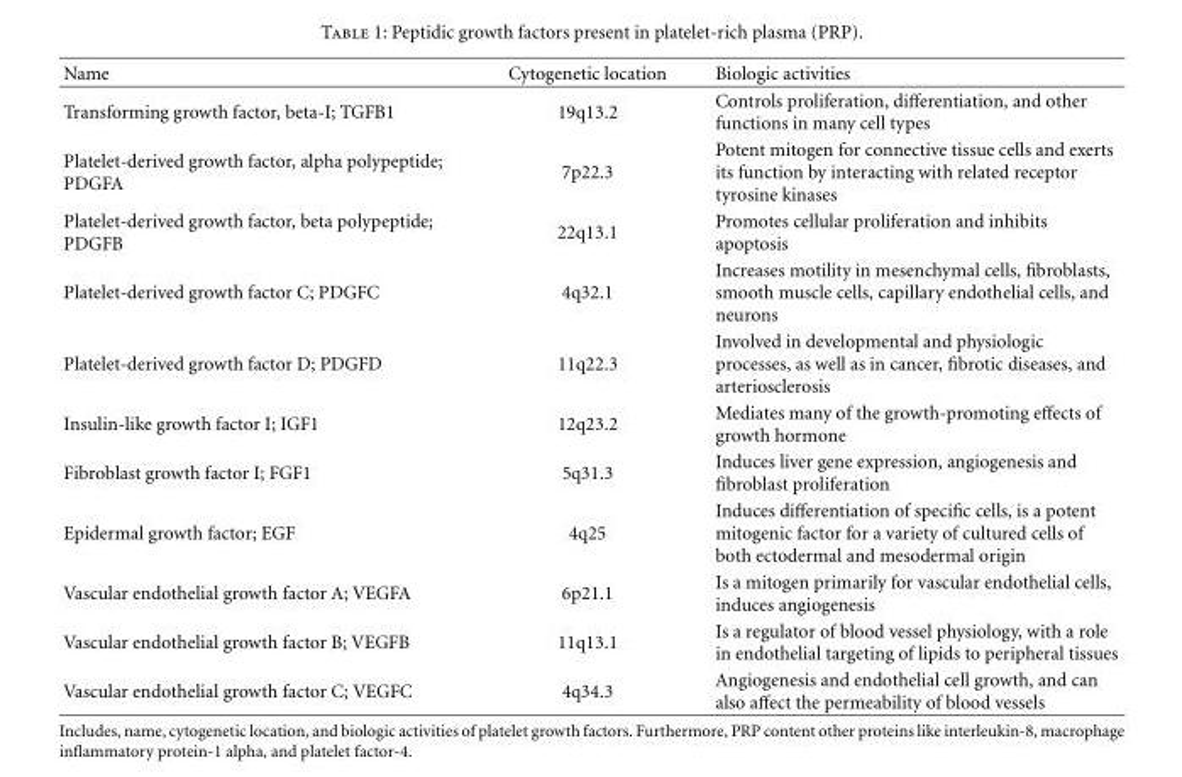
<table><thead><tr><td>Name</td><td>Cytogenetic location</td><td>Biologic activities</td></tr></thead><tbody><tr><td>Transforming growth factor, beta-I; TGFB1</td><td>19q13.2</td><td>Controls proliferation, differentiation, and other functions in many cell types</td></tr><tr><td>Platelet-derived growth factor, alpha polypeptide; PDGFA</td><td>7p22.3</td><td>Potent mitogen for connective tissue cells and exerts its function by interacting with related receptor tyrosine kinases</td></tr><tr><td>Platelet-derived growth factor, beta polypeptide; PDGFB</td><td>22q13.1</td><td>Promotes cellular proliferation and inhibits apoptosis</td></tr><tr><td>Platelet-derived growth factor C; PDGFC</td><td>4q32.1</td><td>Increases motility in mesenchymal cells, fibroblasts, smooth muscle cells, capillary endothelial cells, and neurons</td></tr><tr><td>Platelet-derived growth factor D; PDGFD</td><td>11q22.3</td><td>Involved in developmental and physiologic processes, as well as in cancer, fibrotic diseases, and arteriosclerosis</td></tr><tr><td>Insulin-like growth factor I; IGF1</td><td>12q23.2</td><td>Mediates many of the growth-promoting effects of growth hormone</td></tr><tr><td>Fibroblast growth factor I; FGF1</td><td>5q31.3</td><td>Induces liver gene expression, angiogenesis and fibroblast proliferation</td></tr><tr><td>Epidermal growth factor; EGF</td><td>4q25</td><td>Induces differentiation of specific cells, is a potent mitogenic factor for a variety of cultured cells of both ectodermal and mesodermal origin</td></tr><tr><td>Vascular endothelial growth factor A; VEGFA</td><td>6p21.1</td><td>Is a mitogen primarily for vascular endothelial cells, induces angiogenesis</td></tr><tr><td>Vascular endothelial growth factor B; VEGFB</td><td>11q13.1</td><td>Is a regulator of blood vessel physiology, with a role in endothelial targeting of lipids to peripheral tissues</td></tr><tr><td>Vascular endothelial growth factor C; VEGFC</td><td>4q34.3</td><td>Angiogenesis and endothelial cell growth, and can also affect the permeability of blood vessels</td></tr></tbody></table>